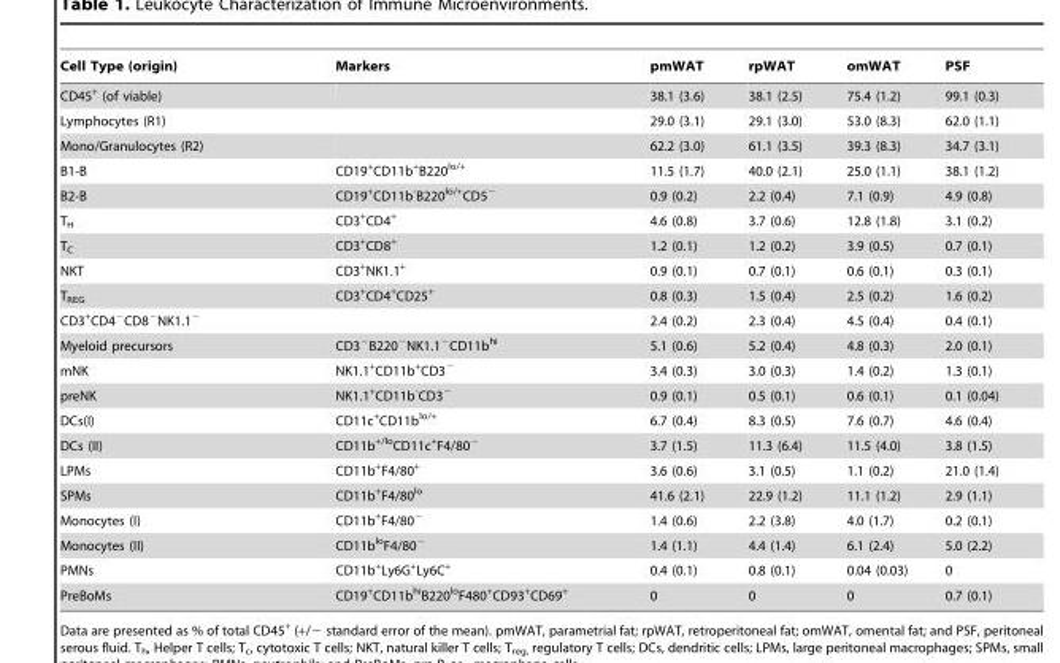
<table><thead><tr><td>Cell Type (origin)</td><td>Markers</td><td>pmWAT</td><td>rpWAT</td><td>omWAT</td><td>PSF</td></tr></thead><tbody><tr><td>CD45<sup>+</sup> (of viable)</td><td></td><td>38.1 (3.6)</td><td>38.1 (2.5)</td><td>75.4 (1.2)</td><td>99.1 (0.3)</td></tr><tr><td>Lymphocytes (R1)</td><td></td><td>29.0 (3.1)</td><td>29.1 (3.0)</td><td>53.0 (8.3)</td><td>62.0 (1.1)</td></tr><tr><td>Mono/Granulocytes (R2)</td><td></td><td>62.2 (3.0)</td><td>61.1 (3.5)</td><td>39.3 (8.3)</td><td>34.7 (3.1)</td></tr><tr><td>B1-B</td><td>CD19<sup>+</sup>CD11b<sup>+</sup>B220<sup>lo/+</sup></td><td>11.5 (1.7)</td><td>40.0 (2.1)</td><td>25.0 (1.1)</td><td>38.1 (1.2)</td></tr><tr><td>B2-B</td><td>CD19<sup>+</sup>CD11b<sup>-</sup>B220<sup>lo/+</sup>CD5<sup>−</sup></td><td>0.9 (0.2)</td><td>2.2 (0.4)</td><td>7.1 (0.9)</td><td>4.9 (0.8)</td></tr><tr><td>T<sub>H</sub></td><td>CD3<sup>+</sup>CD4<sup>+</sup></td><td>4.6 (0.8)</td><td>3.7 (0.6)</td><td>12.8 (1.8)</td><td>3.1 (0.2)</td></tr><tr><td>T<sub>C</sub></td><td>CD3<sup>+</sup>CD8<sup>+</sup></td><td>1.2 (0.1)</td><td>1.2 (0.2)</td><td>3.9 (0.5)</td><td>0.7 (0.1)</td></tr><tr><td>NKT</td><td>CD3<sup>+</sup>NK1.1<sup>+</sup></td><td>0.9 (0.1)</td><td>0.7 (0.1)</td><td>0.6 (0.1)</td><td>0.3 (0.1)</td></tr><tr><td>T<sub>REG</sub></td><td>CD3<sup>+</sup>CD4<sup>+</sup>CD25<sup>+</sup></td><td>0.8 (0.3)</td><td>1.5 (0.4)</td><td>2.5 (0.2)</td><td>1.6 (0.2)</td></tr><tr><td>CD3<sup>+</sup>CD4<sup>−</sup>CD8<sup>−</sup>NK1.1<sup>−</sup></td><td></td><td>2.4 (0.2)</td><td>2.3 (0.4)</td><td>4.5 (0.4)</td><td>0.4 (0.1)</td></tr><tr><td>Myeloid precursors</td><td>CD3<sup>−</sup>B220<sup>−</sup>NK1.1<sup>−</sup>CD11b<sup>hi</sup></td><td>5.1 (0.6)</td><td>5.2 (0.4)</td><td>4.8 (0.3)</td><td>2.0 (0.1)</td></tr><tr><td>mNK</td><td>NK1.1<sup>+</sup>CD11b<sup>+</sup>CD3<sup>−</sup></td><td>3.4 (0.3)</td><td>3.0 (0.3)</td><td>1.4 (0.2)</td><td>1.3 (0.1)</td></tr><tr><td>preNK</td><td>NK1.1<sup>+</sup>CD11b<sup>-</sup>CD3<sup>−</sup></td><td>0.9 (0.1)</td><td>0.5 (0.1)</td><td>0.6 (0.1)</td><td>0.1 (0.04)</td></tr><tr><td>DCs(I)</td><td>CD11c<sup>+</sup>CD11b<sup>lo/+</sup></td><td>6.7 (0.4)</td><td>8.3 (0.5)</td><td>7.6 (0.7)</td><td>4.6 (0.4)</td></tr><tr><td>DCs (II)</td><td>CD11b<sup>+/lo</sup>CD11c<sup>+</sup>F4/80<sup>−</sup></td><td>3.7 (1.5)</td><td>11.3 (6.4)</td><td>11.5 (4.0)</td><td>3.8 (1.5)</td></tr><tr><td>LPMs</td><td>CD11b<sup>+</sup>F4/80<sup>+</sup></td><td>3.6 (0.6)</td><td>3.1 (0.5)</td><td>1.1 (0.2)</td><td>21.0 (1.4)</td></tr><tr><td>SPMs</td><td>CD11b<sup>+</sup>F4/80<sup>lo</sup></td><td>41.6 (2.1)</td><td>22.9 (1.2)</td><td>11.1 (1.2)</td><td>2.9 (1.1)</td></tr><tr><td>Monocytes (I)</td><td>CD11b<sup>+</sup>F4/80<sup>−</sup></td><td>1.4 (0.6)</td><td>2.2 (3.8)</td><td>4.0 (1.7)</td><td>0.2 (0.1)</td></tr><tr><td>Monocytes (II)</td><td>CD11b<sup>lo</sup>F4/80<sup>−</sup></td><td>1.4 (1.1)</td><td>4.4 (1.4)</td><td>6.1 (2.4)</td><td>5.0 (2.2)</td></tr><tr><td>PMNs</td><td>CD11b<sup>+</sup>Ly6G<sup>+</sup>Ly6C<sup>+</sup></td><td>0.4 (0.1)</td><td>0.8 (0.1)</td><td>0.04 (0.03)</td><td>0</td></tr><tr><td>PreBoMs</td><td>CD19<sup>+</sup>CD11b<sup>hi</sup>B220<sup>lo</sup>F480<sup>+</sup>CD93<sup>+</sup>CD69<sup>+</sup></td><td>0</td><td>0</td><td>0</td><td>0.7 (0.1)</td></tr></tbody></table>